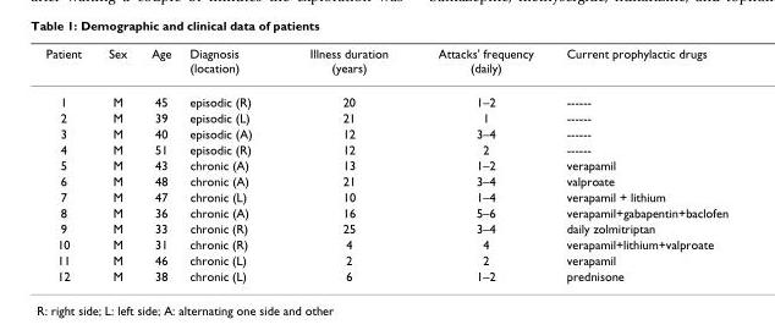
<table><thead><tr><td>Patient</td><td>Sex</td><td>Age</td><td>Diagnosis (location)</td><td>Illness duration (years)</td><td>Attacks&#x27; frequency (daily)</td><td>Current prophylactic drugs</td></tr></thead><tbody><tr><td>1</td><td>M</td><td>45</td><td>episodic (R)</td><td>20</td><td>1–2</td><td>------</td></tr><tr><td>2</td><td>M</td><td>39</td><td>episodic (L)</td><td>21</td><td>1</td><td>------</td></tr><tr><td>3</td><td>M</td><td>40</td><td>episodic (A)</td><td>12</td><td>3–4</td><td>------</td></tr><tr><td>4</td><td>M</td><td>51</td><td>episodic (R)</td><td>12</td><td>2</td><td>------</td></tr><tr><td>5</td><td>M</td><td>43</td><td>chronic (A)</td><td>13</td><td>1–2</td><td>verapamil</td></tr><tr><td>6</td><td>M</td><td>48</td><td>chronic (A)</td><td>21</td><td>3–4</td><td>valproate</td></tr><tr><td>7</td><td>M</td><td>47</td><td>chronic (L)</td><td>10</td><td>1–4</td><td>verapamil + lithium</td></tr><tr><td>8</td><td>M</td><td>36</td><td>chronic (A)</td><td>16</td><td>5–6</td><td>verapamil+gabapentin+baclofen</td></tr><tr><td>9</td><td>M</td><td>33</td><td>chronic (R)</td><td>25</td><td>3–4</td><td>daily zolmitriptan</td></tr><tr><td>10</td><td>M</td><td>31</td><td>chronic (R)</td><td>4</td><td>4</td><td>verapamil+lithium+valproate</td></tr><tr><td>11</td><td>M</td><td>46</td><td>chronic (L)</td><td>2</td><td>2</td><td>verapamil</td></tr><tr><td>12</td><td>M</td><td>38</td><td>chronic (L)</td><td>6</td><td>1–2</td><td>prednisone</td></tr></tbody></table>